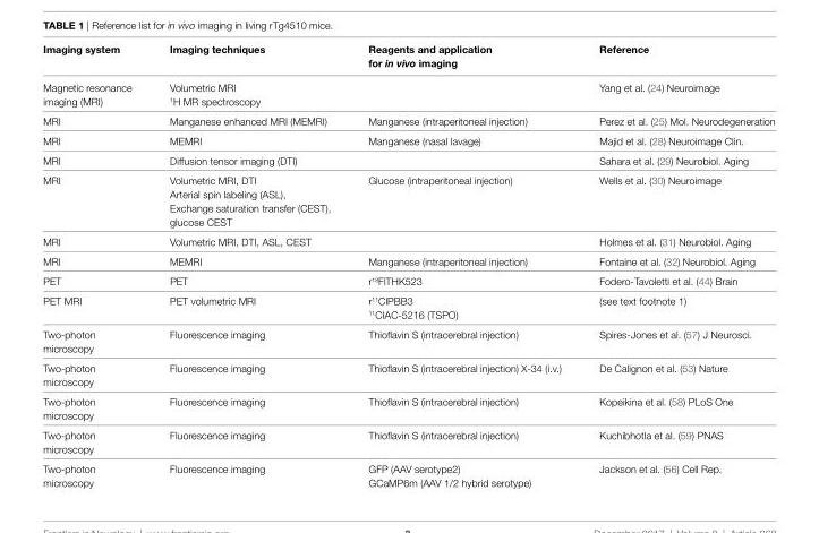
<table><thead><tr><td>imaging system</td><td>imaging techniques</td><td>Reagents and application for in vivo imaging</td><td>Reference</td></tr></thead><tbody><tr><td>Magnetic resonance imaging (MRI)</td><td>Volumetric MRI <sup>1</sup>H MR spectroscopy</td><td></td><td>Yang et al. (24) Neuroimage</td></tr><tr><td>MRI</td><td>Manganese enhanced MRI (MEMRI)</td><td>Manganese (intraperitoneal injection)</td><td>Perez et al. (25) Mol. Neurodegeneration</td></tr><tr><td>MRI</td><td>MEMRI</td><td>Manganese (nasal lavage)</td><td>Majid et al. (28) Neuroimage Clin.</td></tr><tr><td>MRI</td><td>Diffusion tensor imaging (DTI)</td><td></td><td>Sahara et al. (29) Neurobiol. Aging</td></tr><tr><td>MRI</td><td>Volumetric MRI, DTI Arterial spin labeling (ASL), Exchange saturation transfer (CEST), glucose CEST</td><td>Glucose (intraperitoneal injection)</td><td>Wells et al. (30) Neuroimage</td></tr><tr><td>MRI</td><td>Volumetric MRI, DTI, ASL, CEST</td><td></td><td>Holmes et al. (31) Neurobiol. Aging</td></tr><tr><td>MRI</td><td>MEMRI</td><td>Manganese (intraperitoneal injection)</td><td>Fontaine et al. (32) Neurobiol. Aging</td></tr><tr><td>PET</td><td>PET</td><td>r<sup>18</sup>FlTHK523</td><td>Fodero-Tavoletti et al. (44) Brain</td></tr><tr><td>PET MRI</td><td>PET volumetric MRI</td><td>r<sup>11</sup>ClPBB3 <sup>11</sup>CIAC-5216 (TSPO)</td><td>(see text footnote 1)</td></tr><tr><td>Two-photon microscopy</td><td>Fluorescence imaging</td><td>Thioflavin S (intracerebral injection)</td><td>Spires-Jones et al. (57) J Neurosci.</td></tr><tr><td>Two-photon microscopy</td><td>Fluorescence imaging</td><td>Thioflavin S (intracerebral injection) X-34 (i.v.)</td><td>De Calignon et al. (53) Nature</td></tr><tr><td>Two-photon microscopy</td><td>Fluorescence imaging</td><td>Thioflavin S (intracerebral injection)</td><td>Kopeikina et al. (58) PLoS One</td></tr><tr><td>Two-photon microscopy</td><td>Fluorescence imaging</td><td>Thioflavin S (intracerebral injection)</td><td>Kuchibhotla et al. (59) PNAS</td></tr><tr><td>Two-photon microscopy</td><td>Fluorescence imaging</td><td>GFP (AAV serotype2) GCaMP6m (AAV 1/2 hybrid serotype)</td><td>Jackson et al. (56) Cell Rep.</td></tr></tbody></table>